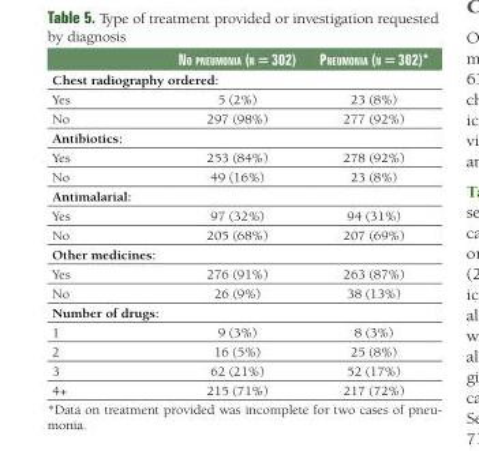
<table><thead><tr><td></td><td>no Pneumonia (n = 302)</td><td>Pneumonia (n = 302)*</td></tr></thead><tbody><tr><td colspan="3">Chest radiography ordered:</td></tr><tr><td>Yes</td><td>5 (2%)</td><td>23 (8%)</td></tr><tr><td>No</td><td>297 (98%)</td><td>277 (92%)</td></tr><tr><td colspan="3">Antibiotics:</td></tr><tr><td>Yes</td><td>253 (84%)</td><td>278 (92%)</td></tr><tr><td>No</td><td>49 (16%)</td><td>23 (8%)</td></tr><tr><td colspan="3">Antimalarial:</td></tr><tr><td>Yes</td><td>97 (32%)</td><td>94 (31%)</td></tr><tr><td>No</td><td>205 (68%)</td><td>207 (69%)</td></tr><tr><td colspan="3">Other medicines:</td></tr><tr><td>Yes</td><td>276 (91%)</td><td>263 (87%)</td></tr><tr><td>No</td><td>26 (9%)</td><td>38 (13%)</td></tr><tr><td colspan="3">Number of drugs:</td></tr><tr><td>1</td><td>9 (3%)</td><td>8 (3%)</td></tr><tr><td>2</td><td>16 (5%)</td><td>25 (8%)</td></tr><tr><td>3</td><td>62 (21%)</td><td>52 (17%)</td></tr><tr><td>4+</td><td>215 (71%)</td><td>217 (72%)</td></tr></tbody></table>